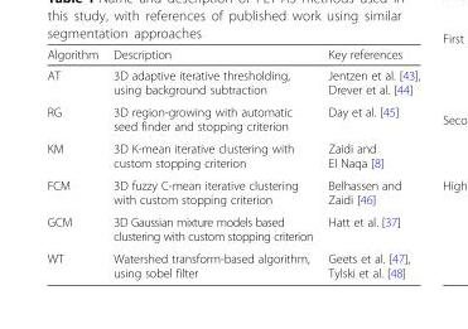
<table><thead><tr><td>Algorithm</td><td>Description</td><td>Key references</td></tr></thead><tbody><tr><td>AT</td><td>3D adaptive iterative thresholding, using background subtraction</td><td>Jentzen et al. [43], Drever et al. [44]</td></tr><tr><td>RG</td><td>3D region-growing with automatic seed finder and stopping criterion</td><td>Day et al. [45]</td></tr><tr><td>KM</td><td>3D K-mean iterative clustering with custom stopping criterion</td><td>Zaidi and El Naqa [8]</td></tr><tr><td>FCM</td><td>3D fuzzy C-mean iterative clustering with custom stopping criterion</td><td>Belhassen and Zaidi [46]</td></tr><tr><td>GCM</td><td>3D Gaussian mixture models based clustering with custom stopping criterion</td><td>Hatt et al. [37]</td></tr><tr><td>WT</td><td>Watershed transform-based algorithm, using sobel filter</td><td>Geets et al. [47], Tylski et al. [48]</td></tr></tbody></table>